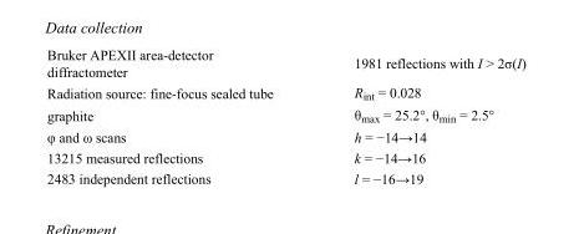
<table><tbody><tr><td>Bruker APEXII area-detector diffractometer</td><td>1981 reflections with I &gt; 2σ(I)</td></tr><tr><td>Radiation source: fine-focus sealed tube</td><td>R<sub>int</sub> = 0.028</td></tr><tr><td>graphite</td><td>θ<sub>max</sub> = 25.2°, θ<sub>min</sub> = 2.5°</td></tr><tr><td>φ and ω scans</td><td>h = −14→14</td></tr><tr><td>13215 measured reflections</td><td>k = −14→16</td></tr><tr><td>2483 independent reflections</td><td>l = −16→19</td></tr></tbody></table>